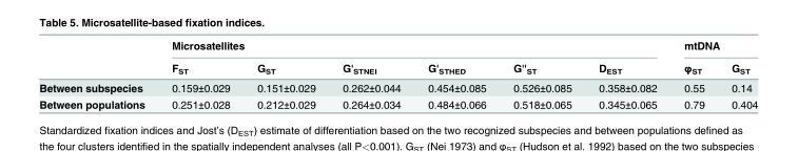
<table><thead><tr><td rowspan="2"></td><td colspan="6">Microsatellites</td><td colspan="2">mtDNA</td></tr><tr><td>F<sub>ST</sub></td><td>G<sub>ST</sub></td><td>G&#x27;<sub>STNEI</sub></td><td>G&#x27;<sub>STHED</sub></td><td>G&#x27;&#x27;<sub>ST</sub></td><td>D<sub>EST</sub></td><td>φ<sub>ST</sub></td><td>G<sub>ST</sub></td></tr></thead><tbody><tr><td>Between subspecies</td><td>0.159±0.029</td><td>0.151±0.029</td><td>0.262±0.044</td><td>0.454±0.085</td><td>0.526±0.085</td><td>0.358±0.082</td><td>0.55</td><td>0.14</td></tr><tr><td>Between populations</td><td>0.251±0.028</td><td>0.212±0.029</td><td>0.264±0.034</td><td>0.484±0.066</td><td>0.518±0.065</td><td>0.345±0.065</td><td>0.79</td><td>0.404</td></tr></tbody></table>